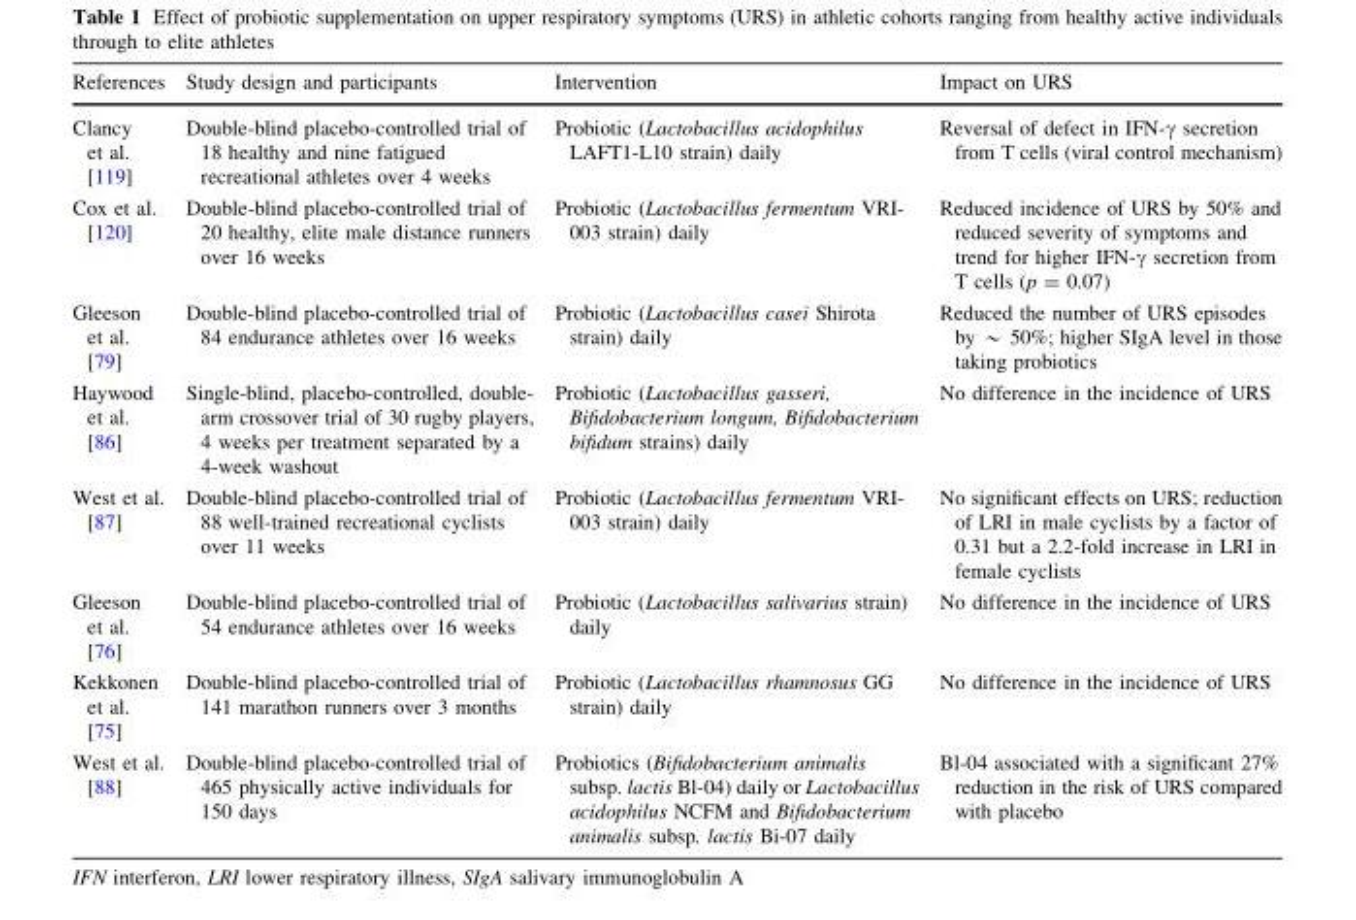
<table><thead><tr><td>References</td><td>Study design and participants</td><td>Intervention</td><td>Impact on URS</td></tr></thead><tbody><tr><td>Clancy et al. [119]</td><td>Double-blind placebo-controlled trial of 18 healthy and nine fatigued recreational athletes over 4 weeks</td><td>Probiotic (Lactobacillus acidophilus LAFT1-L10 strain) daily</td><td>Reversal of defect in IFN-γ secretion from T cells (viral control mechanism)</td></tr><tr><td>Cox et al. [120]</td><td>Double-blind placebo-controlled trial of 20 healthy, elite male distance runners over 16 weeks</td><td>Probiotic (Lactobacillus fermentum VRI- 003 strain) daily</td><td>Reduced incidence of URS by 50% and reduced severity of symptoms and trend for higher IFN-γ secretion from T cells (p = 0.07)</td></tr><tr><td>Gleeson et al. [79]</td><td>Double-blind placebo-controlled trial of 84 endurance athletes over 16 weeks</td><td>Probiotic (Lactobacillus casei Shirota strain) daily</td><td>Reduced the number of URS episodes by * 50%; higher SIgA level in those taking probiotics</td></tr><tr><td>Haywood et al. [86]</td><td>Single-blind, placebo-controlled, double- arm crossover trial of 30 rugby players, 4 weeks per treatment separated by a 4-week washout</td><td>Probiotic (Lactobacillus gasseri, Bifidobacterium longum, Bifidobacterium bifidum strains) daily</td><td>No difference in the incidence of URS</td></tr><tr><td>West et al. [87]</td><td>Double-blind placebo-controlled trial of 88 well-trained recreational cyclists over 11 weeks</td><td>Probiotic (Lactobacillus fermentum VRI- 003 strain) daily</td><td>No significant effects on URS; reduction of LRI in male cyclists by a factor of 0.31 but a 2.2-fold increase in LRI in female cyclists</td></tr><tr><td>Gleeson et al. [76]</td><td>Double-blind placebo-controlled trial of 54 endurance athletes over 16 weeks</td><td>Probiotic (Lactobacillus salivarius strain) daily</td><td>No difference in the incidence of URS</td></tr><tr><td>Kekkonen et al. [75]</td><td>Double-blind placebo-controlled trial of 141 marathon runners over 3 months</td><td>Probiotic (Lactobacillus rhamnosus GG strain) daily</td><td>No difference in the incidence of URS</td></tr><tr><td>West et al. [88]</td><td>Double-blind placebo-controlled trial of 465 physically active individuals for 150 days</td><td>Probiotics (Bifidobacterium animalis subsp. lactis Bl-04) daily or Lactobacillus acidophilus NCFM and Bifidobacterium animalis subsp. lactis Bi-07 daily</td><td>Bl-04 associated with a significant 27% reduction in the risk of URS compared with placebo</td></tr></tbody></table>